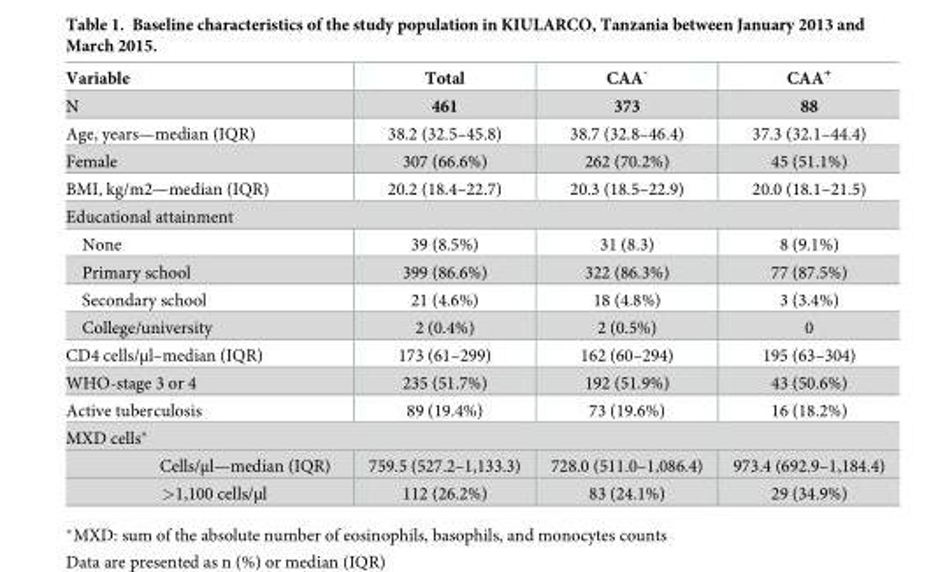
<table><thead><tr><td>Variable</td><td>Total</td><td>CAA<sup>-</sup></td><td>CAA<sup>+</sup></td></tr></thead><tbody><tr><td>N</td><td>461</td><td>373</td><td>88</td></tr><tr><td>Age, years—median (IQR)</td><td>38.2 (32.5–45.8)</td><td>38.7 (32.8–46.4)</td><td>37.3 (32.1–44.4)</td></tr><tr><td>Female</td><td>307 (66.6%)</td><td>262 (70.2%)</td><td>45 (51.1%)</td></tr><tr><td>BMI, kg/m2—median (IQR)</td><td>20.2 (18.4–22.7)</td><td>20.3 (18.5–22.9)</td><td>20.0 (18.1–21.5)</td></tr><tr><td colspan="4">Educational attainment</td></tr><tr><td>None</td><td>39 (8.5%)</td><td>31 (8.3)</td><td>8 (9.1%)</td></tr><tr><td>Primary school</td><td>399 (86.6%)</td><td>322 (86.3%)</td><td>77 (87.5%)</td></tr><tr><td>Secondary school</td><td>21 (4.6%)</td><td>18 (4.8%)</td><td>3 (3.4%)</td></tr><tr><td>College/university</td><td>2 (0.4%)</td><td>2 (0.5%)</td><td>0</td></tr><tr><td>CD4 cells/μl–median (IQR)</td><td>173 (61–299)</td><td>162 (60–294)</td><td>195 (63–304)</td></tr><tr><td>WHO-stage 3 or 4</td><td>235 (51.7%)</td><td>192 (51.9%)</td><td>43 (50.6%)</td></tr><tr><td>Active tuberculosis</td><td>89 (19.4%)</td><td>73 (19.6%)</td><td>16 (18.2%)</td></tr><tr><td colspan="4">MXD cells*</td></tr><tr><td>Cells/μl—median (IQR)</td><td>759.5 (527.2–1,133.3)</td><td>728.0 (511.0–1,086.4)</td><td>973.4 (692.9–1,184.4)</td></tr><tr><td>&gt;1,100 cells/μl</td><td>112 (26.2%)</td><td>83 (24.1%)</td><td>29 (34.9%)</td></tr></tbody></table>